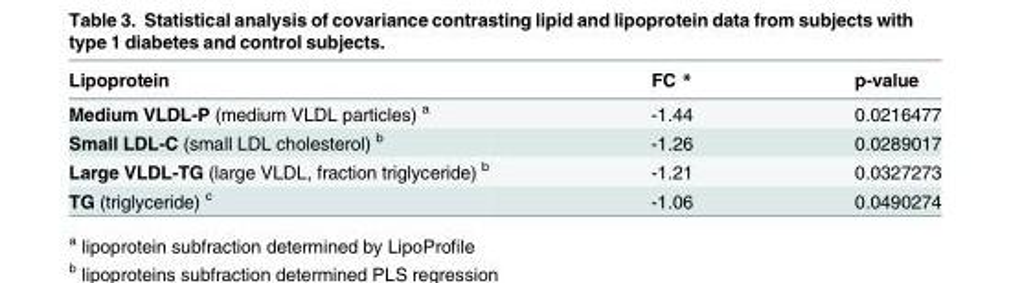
<table><thead><tr><td>Lipoprotein</td><td>FC *</td><td>p-value</td></tr></thead><tbody><tr><td>Medium VLDL-P (medium VLDL particles) <sup>a</sup></td><td>-1.44</td><td>0.0216477</td></tr><tr><td>Small LDL-C (small LDL cholesterol) <sup>b</sup></td><td>-1.26</td><td>0.0289017</td></tr><tr><td>Large VLDL-TG (large VLDL, fraction triglyceride) <sup>b</sup></td><td>-1.21</td><td>0.0327273</td></tr><tr><td>TG (triglyceride) <sup>c</sup></td><td>-1.06</td><td>0.0490274</td></tr></tbody></table>